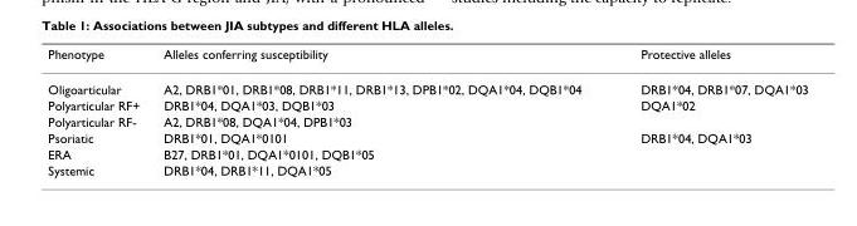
<table><thead><tr><td>Phenotype</td><td>Alleles conferring susceptibility</td><td>Protective alleles</td></tr></thead><tbody><tr><td>Oligoarticular</td><td>A2, DRB1*01, DRB1*08, DRB1*11, DRB1*13, DPB1*02, DQA1*04, DQB1*04</td><td>DRB1*04, DRB1*07, DQA1*03</td></tr><tr><td>Polyarticular RF+</td><td>DRB1*04, DQA1*03, DQB1*03</td><td>DQA1*02</td></tr><tr><td>Polyarticular RF-</td><td>A2, DRB1*08, DQA1*04, DPB1*03</td><td></td></tr><tr><td>Psoriatic</td><td>DRB1*01, DQA1*0101</td><td>DRB1*04, DQA1*03</td></tr><tr><td>ERA</td><td>B27, DRB1*01, DQA1*0101, DQB1*05</td><td></td></tr><tr><td>Systemic</td><td>DRB1*04, DRB1*11, DQA1*05</td><td></td></tr></tbody></table>